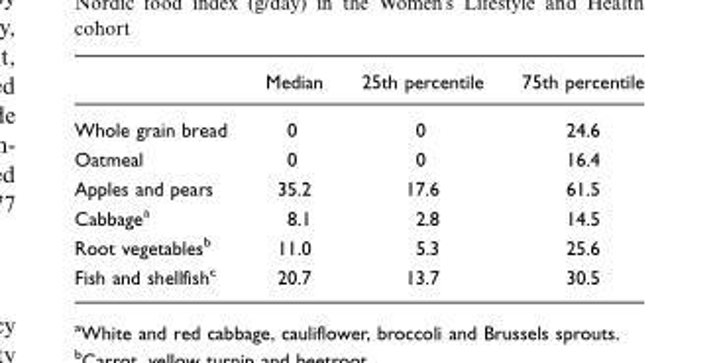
<table><thead><tr><td></td><td>Median</td><td>25th percentile</td><td>75th percentile</td></tr></thead><tbody><tr><td>Whole grain bread</td><td>0</td><td>0</td><td>24.6</td></tr><tr><td>Oatmeal</td><td>0</td><td>0</td><td>16.4</td></tr><tr><td>Apples and pears</td><td>35.2</td><td>17.6</td><td>61.5</td></tr><tr><td>Cabbage<sup>a</sup></td><td>8.1</td><td>2.8</td><td>14.5</td></tr><tr><td>Root vegetables<sup>b</sup></td><td>11.0</td><td>5.3</td><td>25.6</td></tr><tr><td>Fish and shellfish<sup>c</sup></td><td>20.7</td><td>13.7</td><td>30.5</td></tr></tbody></table>